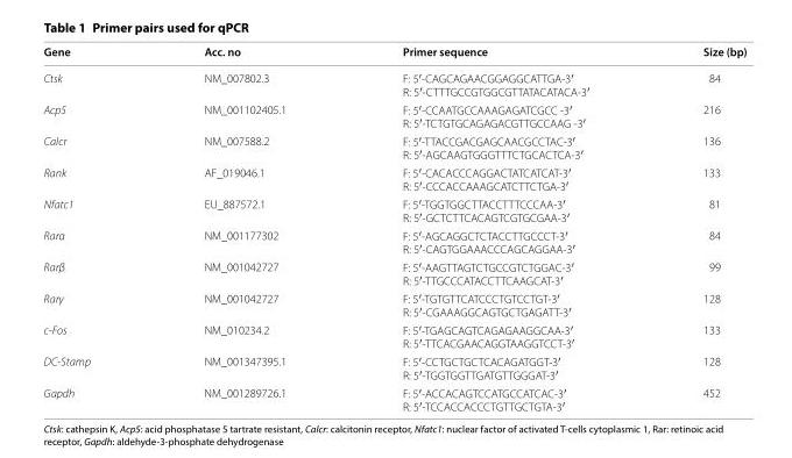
<table><thead><tr><td>Gene</td><td>Acc. no</td><td>Primer sequence</td><td>Size (bp)</td></tr></thead><tbody><tr><td>Ctsk</td><td>NM_007802.3</td><td>F: 5′-CAG CAG AAC GGA GGC ATT GA-3′ R: 5′-CTT TGC CGT GGC GTT ATA CAT ACA -3′</td><td>84</td></tr><tr><td>Acp5</td><td>NM_001102405.1</td><td>F: 5′-CCA ATG CCA AAG AGA TCG CC -3′ R: 5′-TCT GTG CAG AGA CGT TGC CAAG -3′</td><td>216</td></tr><tr><td>Calcr</td><td>NM_007588.2</td><td>F: 5′-TTA CCG ACG AGC AAC GCC TAC-3′ R: 5′-AGC AAG TGG GTT TCT GCA CTCA-3′</td><td>136</td></tr><tr><td>Rank</td><td>AF_019046.1</td><td>F: 5′-CAC ACC CAG GAC TAT CAT CAT-3′ R: 5′-CCC ACC AAA GCA TCT TCT GA-3′</td><td>133</td></tr><tr><td>Nfatc1</td><td>EU_887572.1</td><td>F: 5′-TGG TGG CTT ACC TTT CCC AA-3′ R: 5′-GCT CTT CAC AGT CGT GCG AA-3′</td><td>81</td></tr><tr><td>Rarα</td><td>NM_001177302</td><td>F: 5′-AGC AGG CTC TAC CTT GCC CT-3′ R: 5′-CAG TGG AAA CCC AGC AGG AA-3′</td><td>84</td></tr><tr><td>Rarβ</td><td>NM_001042727</td><td>F: 5′-AAG TTA GTC TGC CGT CTG GAC-3′ R: 5′-TTG CCC ATA CCT TCA AGC AT-3′</td><td>99</td></tr><tr><td>Rarγ</td><td>NM_001042727</td><td>F: 5′-TGT GTT CAT CCC TGT CCT GT-3′ R: 5′-CGA AAG GCA GTG CTG AGA TT-3′</td><td>128</td></tr><tr><td>c-Fos</td><td>NM_010234.2</td><td>F: 5′-TGA GCA GTC AGA GAA GGC AA-3′ R: 5′-TTC ACG AAC AGG TAA GGT CCT-3′</td><td>133</td></tr><tr><td>DC-Stamp</td><td>NM_001347395.1</td><td>F: 5′-CCT GCT GCT CAC AGA TGG T-3′ R: 5′-TGG TGG TTG ATG TTG GGA T-3′</td><td>128</td></tr><tr><td>Gapdh</td><td>NM_001289726.1</td><td>F: 5′-ACC ACA GTC CAT GCC ATC AC-3′ R: 5′-TCC ACC ACC CTG TTG CTG TA-3′</td><td>452</td></tr></tbody></table>